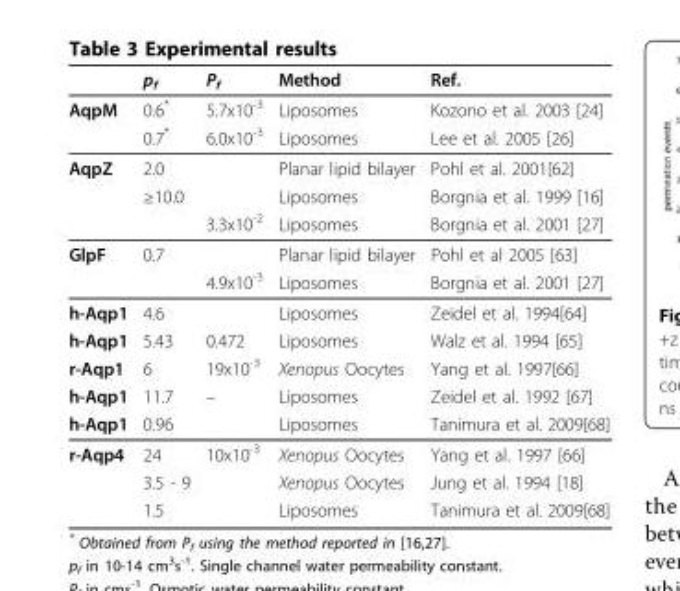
<table><thead><tr><td></td><td>p<sub>f</sub></td><td>P<sub>f</sub></td><td>Method</td><td>Ref.</td></tr></thead><tbody><tr><td rowspan="2">AqpM</td><td>0.6*</td><td>5.7x10<sup>-3</sup></td><td>Liposomes</td><td>Kozono et al. 2003 [24]</td></tr><tr><td>0.7*</td><td>6.0x10<sup>-3</sup></td><td>Liposomes</td><td>Lee et al. 2005 [26]</td></tr><tr><td rowspan="3">AqpZ</td><td>2.0</td><td></td><td>Planar lipid bilayer</td><td>Pohl et al. 2001[62]</td></tr><tr><td>≥10.0</td><td></td><td>Liposomes</td><td>Borgnia et al. 1999 [16]</td></tr><tr><td></td><td>3.3x10<sup>-2</sup></td><td>Liposomes</td><td>Borgnia et al. 2001 [27]</td></tr><tr><td rowspan="2">GlpF</td><td>0.7</td><td></td><td>Planar lipid bilayer</td><td>Pohl et al 2005 [63]</td></tr><tr><td></td><td>4.9x10<sup>-3</sup></td><td>Liposomes</td><td>Borgnia et al. 2001 [27]</td></tr><tr><td>h-Aqp1</td><td>4.6</td><td></td><td>Liposomes</td><td>Zeidel et al. 1994[64]</td></tr><tr><td>h-Aqp1</td><td>5.43</td><td>0.472</td><td>Liposomes</td><td>Walz et al. 1994 [65]</td></tr><tr><td>r-Aqp1</td><td>6</td><td>19x10<sup>-3</sup></td><td>Xenopus Oocytes</td><td>Yang et al. 1997[66]</td></tr><tr><td>h-Aqp1</td><td>11.7</td><td>–</td><td>Liposomes</td><td>Zeidel et al. 1992 [67]</td></tr><tr><td>h-Aqp1</td><td>0.96</td><td></td><td>Liposomes</td><td>Tanimura et al. 2009[68]</td></tr><tr><td rowspan="3">r-Aqp4</td><td>24</td><td>10x10<sup>-3</sup></td><td>Xenopus Oocytes</td><td>Yang et al. 1997 [66]</td></tr><tr><td>3.5 - 9</td><td></td><td>Xenopus Oocytes</td><td>Jung et al. 1994 [18]</td></tr><tr><td>1.5</td><td></td><td>Liposomes</td><td>Tanimura et al. 2009[68]</td></tr></tbody></table>